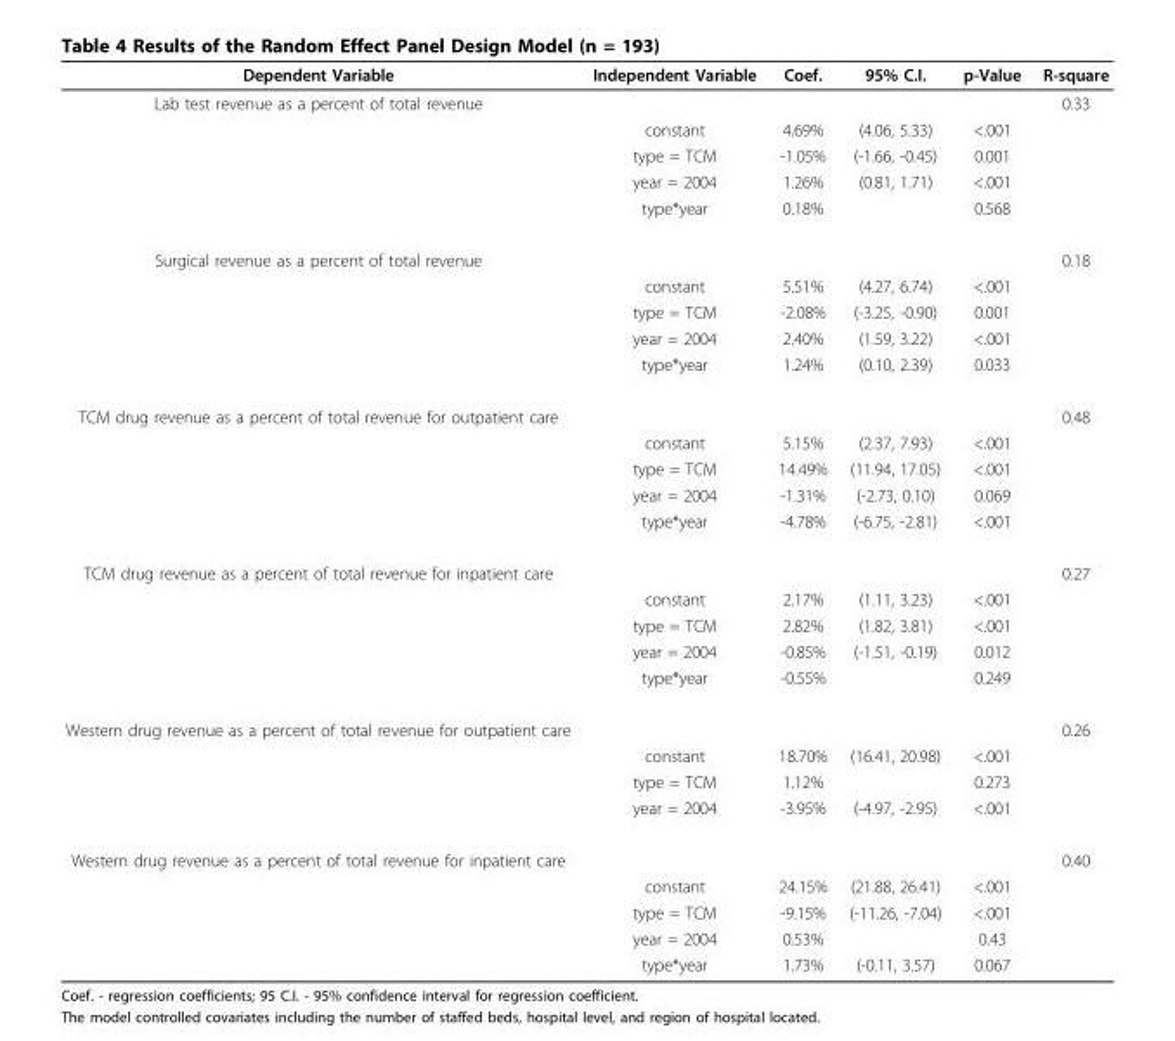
<table><thead><tr><td>Dependent Variable</td><td>Independent Variable</td><td>Coef.</td><td>95% C.I.</td><td>p-Value</td><td>R-square</td></tr></thead><tbody><tr><td rowspan="5">Lab test revenue as a percent of total revenue</td><td></td><td></td><td></td><td></td><td>0.33</td></tr><tr><td>constant</td><td>4.69%</td><td>(4.06, 5.33)</td><td>&lt;.001</td><td></td></tr><tr><td>type = TCM</td><td>-1.05%</td><td>(-1.66, -0.45)</td><td>0.001</td><td></td></tr><tr><td>year = 2004</td><td>1.26%</td><td>(0.81, 1.71)</td><td>&lt;.001</td><td></td></tr><tr><td>type*year</td><td>0.18%</td><td></td><td>0.568</td><td></td></tr><tr><td rowspan="5">Surgical revenue as a percent of total revenue</td><td></td><td></td><td></td><td></td><td>0.18</td></tr><tr><td>constant</td><td>5.51%</td><td>(4.27, 6.74)</td><td>&lt;.001</td><td></td></tr><tr><td>type = TCM</td><td>-2.08%</td><td>(-3.25, -0.90)</td><td>0.001</td><td></td></tr><tr><td>year = 2004</td><td>2.40%</td><td>(1.59, 3.22)</td><td>&lt;.001</td><td></td></tr><tr><td>type*year</td><td>1.24%</td><td>(0.10, 2.39)</td><td>0.033</td><td></td></tr><tr><td rowspan="5">TCM drug revenue as a percent of total revenue for outpatient care</td><td></td><td></td><td></td><td></td><td>0.48</td></tr><tr><td>constant</td><td>5.15%</td><td>(2.37, 7.93)</td><td>&lt;.001</td><td></td></tr><tr><td>type = TCM</td><td>14.49%</td><td>(11.94, 17.05)</td><td>&lt;.001</td><td></td></tr><tr><td>year = 2004</td><td>-1.31%</td><td>(-2.73, 0.10)</td><td>0.069</td><td></td></tr><tr><td>type*year</td><td>-4.78%</td><td>(-6.75, -2.81)</td><td>&lt;.001</td><td></td></tr><tr><td rowspan="5">TCM drug revenue as a percent of total revenue for inpatient care</td><td></td><td></td><td></td><td></td><td>0.27</td></tr><tr><td>constant</td><td>2.17%</td><td>(1.11, 3.23)</td><td>&lt;.001</td><td></td></tr><tr><td>type = TCM</td><td>2.82%</td><td>(1.82, 3.81)</td><td>&lt;.001</td><td></td></tr><tr><td>year = 2004</td><td>-0.85%</td><td>(-1.51, -0.19)</td><td>0.012</td><td></td></tr><tr><td>type*year</td><td>-0.55%</td><td></td><td>0.249</td><td></td></tr><tr><td rowspan="4">Western drug revenue as a percent of total revenue for outpatient care</td><td></td><td></td><td></td><td></td><td>0.26</td></tr><tr><td>constant</td><td>18.70%</td><td>(16.41, 20.98)</td><td>&lt;.001</td><td></td></tr><tr><td>type = TCM</td><td>1.12%</td><td></td><td>0.273</td><td></td></tr><tr><td>year = 2004</td><td>-3.95%</td><td>(-4.97, -2.95)</td><td>&lt;.001</td><td></td></tr><tr><td rowspan="5">Western drug revenue as a percent of total revenue for inpatient care</td><td></td><td></td><td></td><td></td><td>0.40</td></tr><tr><td>constant</td><td>24.15%</td><td>(21.88, 26.41)</td><td>&lt;.001</td><td></td></tr><tr><td>type = TCM</td><td>-9.15%</td><td>(-11.26, -7.04)</td><td>&lt;.001</td><td></td></tr><tr><td>year = 2004</td><td>0.53%</td><td></td><td>0.43</td><td></td></tr><tr><td>type*year</td><td>1.73%</td><td>(-0.11, 3.57)</td><td>0.067</td><td></td></tr></tbody></table>